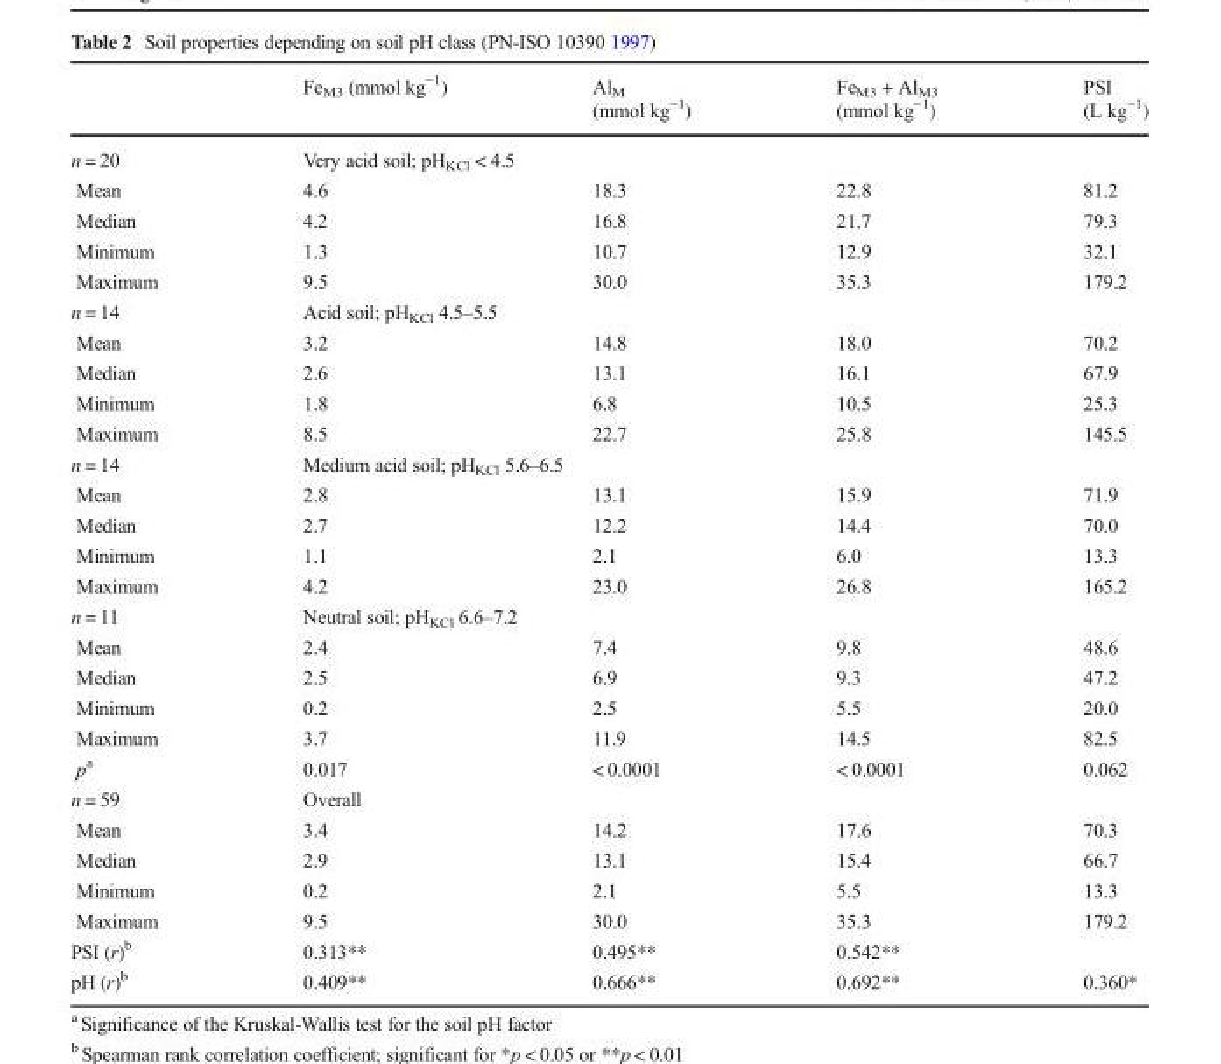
<table><thead><tr><td></td><td>Fe<sub>M3</sub> (mmol kg<sup>−1</sup>)</td><td>Al<sub>M</sub> (mmol kg<sup>−1</sup>)</td><td>Fe<sub>M3</sub> + Al<sub>M3</sub> (mmol kg<sup>−1</sup>)</td><td>PSI (L kg<sup>−1</sup>)</td></tr></thead><tbody><tr><td>n = 20</td><td colspan="4">Very acid soil; pH<sub>KCl</sub> &lt; 4.5</td></tr><tr><td>Mean</td><td>4.6</td><td>18.3</td><td>22.8</td><td>81.2</td></tr><tr><td>Median</td><td>4.2</td><td>16.8</td><td>21.7</td><td>79.3</td></tr><tr><td>Minimum</td><td>1.3</td><td>10.7</td><td>12.9</td><td>32.1</td></tr><tr><td>Maximum</td><td>9.5</td><td>30.0</td><td>35.3</td><td>179.2</td></tr><tr><td>n = 14</td><td colspan="4">Acid soil; pH<sub>KCl</sub> 4.5–5.5</td></tr><tr><td>Mean</td><td>3.2</td><td>14.8</td><td>18.0</td><td>70.2</td></tr><tr><td>Median</td><td>2.6</td><td>13.1</td><td>16.1</td><td>67.9</td></tr><tr><td>Minimum</td><td>1.8</td><td>6.8</td><td>10.5</td><td>25.3</td></tr><tr><td>Maximum</td><td>8.5</td><td>22.7</td><td>25.8</td><td>145.5</td></tr><tr><td>n = 14</td><td colspan="4">Medium acid soil; pH<sub>KCl</sub> 5.6–6.5</td></tr><tr><td>Mean</td><td>2.8</td><td>13.1</td><td>15.9</td><td>71.9</td></tr><tr><td>Median</td><td>2.7</td><td>12.2</td><td>14.4</td><td>70.0</td></tr><tr><td>Minimum</td><td>1.1</td><td>2.1</td><td>6.0</td><td>13.3</td></tr><tr><td>Maximum</td><td>4.2</td><td>23.0</td><td>26.8</td><td>165.2</td></tr><tr><td>n = 11</td><td colspan="4">Neutral soil; pH<sub>KCl</sub> 6.6–7.2</td></tr><tr><td>Mean</td><td>2.4</td><td>7.4</td><td>9.8</td><td>48.6</td></tr><tr><td>Median</td><td>2.5</td><td>6.9</td><td>9.3</td><td>47.2</td></tr><tr><td>Minimum</td><td>0.2</td><td>2.5</td><td>5.5</td><td>20.0</td></tr><tr><td>Maximum</td><td>3.7</td><td>11.9</td><td>14.5</td><td>82.5</td></tr><tr><td>p<sup>a</sup></td><td>0.017</td><td>&lt; 0.0001</td><td>&lt; 0.0001</td><td>0.062</td></tr><tr><td>n = 59</td><td colspan="4">Overall</td></tr><tr><td>Mean</td><td>3.4</td><td>14.2</td><td>17.6</td><td>70.3</td></tr><tr><td>Median</td><td>2.9</td><td>13.1</td><td>15.4</td><td>66.7</td></tr><tr><td>Minimum</td><td>0.2</td><td>2.1</td><td>5.5</td><td>13.3</td></tr><tr><td>Maximum</td><td>9.5</td><td>30.0</td><td>35.3</td><td>179.2</td></tr><tr><td>PSI (r)<sup>b</sup></td><td>0.313**</td><td>0.495**</td><td>0.542**</td><td></td></tr><tr><td>pH (r)<sup>b</sup></td><td>0.409**</td><td>0.666**</td><td>0.692**</td><td>0.360*</td></tr></tbody></table>